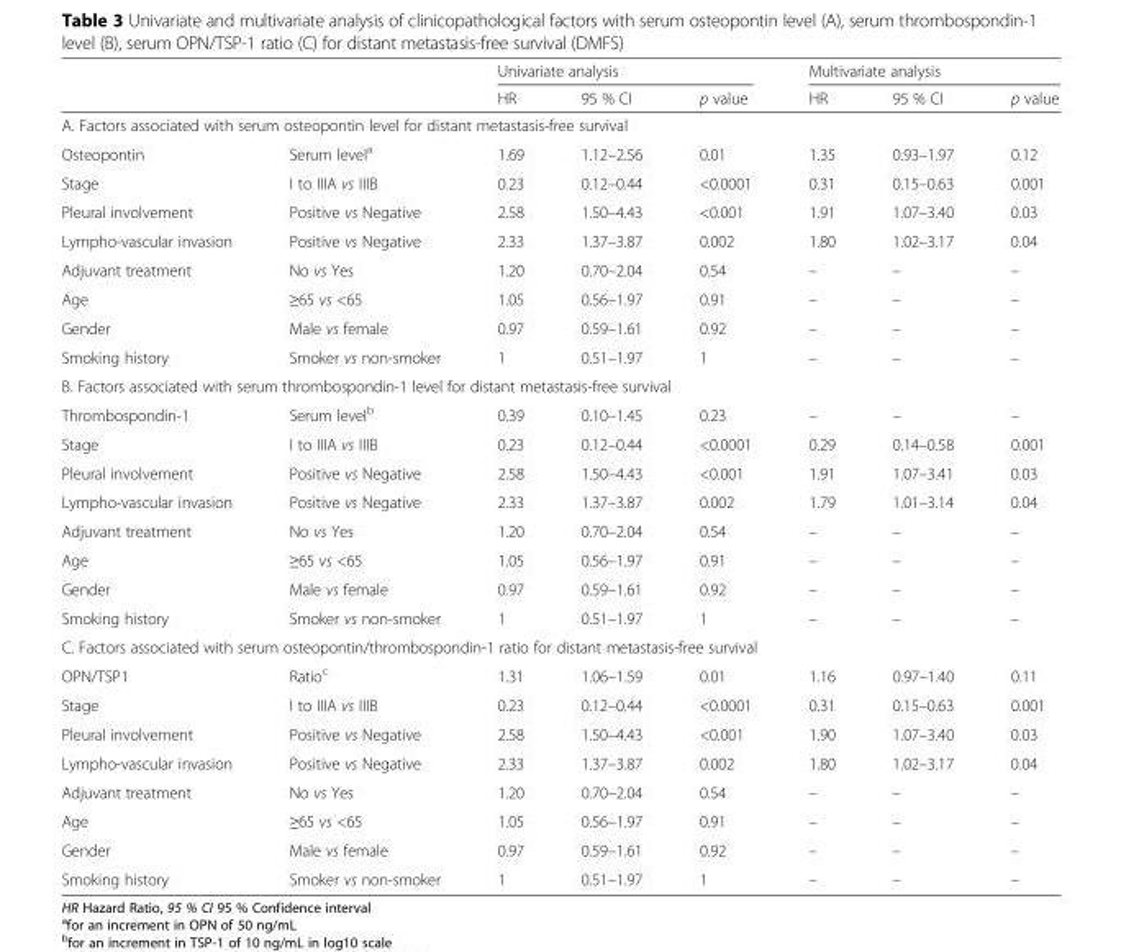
<table><thead><tr><td rowspan="2"></td><td rowspan="2"></td><td colspan="3">Univariate analysis</td><td colspan="3">Multivariate analysis</td></tr><tr><td>HR</td><td>95 % CI</td><td>p value</td><td>HR</td><td>95 % CI</td><td>p value</td></tr></thead><tbody><tr><td colspan="8">A. Factors associated with serum osteopontin level for distant metastasis-free survival</td></tr><tr><td>Osteopontin</td><td>Serum level<sup>a</sup></td><td>1.69</td><td>1.12–2.56</td><td>0.01</td><td>1.35</td><td>0.93–1.97</td><td>0.12</td></tr><tr><td>Stage</td><td>I to IIIA vs IIIB</td><td>0.23</td><td>0.12–0.44</td><td>&lt;0.0001</td><td>0.31</td><td>0.15–0.63</td><td>0.001</td></tr><tr><td>Pleural involvement</td><td>Positive vs Negative</td><td>2.58</td><td>1.50–4.43</td><td>&lt;0.001</td><td>1.91</td><td>1.07–3.40</td><td>0.03</td></tr><tr><td>Lympho-vascular invasion</td><td>Positive vs Negative</td><td>2.33</td><td>1.37–3.87</td><td>0.002</td><td>1.80</td><td>1.02–3.17</td><td>0.04</td></tr><tr><td>Adjuvant treatment</td><td>No vs Yes</td><td>1.20</td><td>0.70–2.04</td><td>0.54</td><td>–</td><td>–</td><td>–</td></tr><tr><td>Age</td><td>≥65 vs &lt;65</td><td>1.05</td><td>0.56–1.97</td><td>0.91</td><td>–</td><td>–</td><td>–</td></tr><tr><td>Gender</td><td>Male vs female</td><td>0.97</td><td>0.59–1.61</td><td>0.92</td><td>–</td><td>–</td><td>–</td></tr><tr><td>Smoking history</td><td>Smoker vs non-smoker</td><td>1</td><td>0.51–1.97</td><td>1</td><td>–</td><td>–</td><td>–</td></tr><tr><td colspan="8">B. Factors associated with serum thrombospondin-1 level for distant metastasis-free survival</td></tr><tr><td>Thrombospondin-1</td><td>Serum level<sup>b</sup></td><td>0.39</td><td>0.10–1.45</td><td>0.23</td><td>–</td><td>–</td><td>–</td></tr><tr><td>Stage</td><td>I to IIIA vs IIIB</td><td>0.23</td><td>0.12–0.44</td><td>&lt;0.0001</td><td>0.29</td><td>0.14–0.58</td><td>0.001</td></tr><tr><td>Pleural involvement</td><td>Positive vs Negative</td><td>2.58</td><td>1.50–4.43</td><td>&lt;0.001</td><td>1.91</td><td>1.07–3.41</td><td>0.03</td></tr><tr><td>Lympho-vascular invasion</td><td>Positive vs Negative</td><td>2.33</td><td>1.37–3.87</td><td>0.002</td><td>1.79</td><td>1.01–3.14</td><td>0.04</td></tr><tr><td>Adjuvant treatment</td><td>No vs Yes</td><td>1.20</td><td>0.70–2.04</td><td>0.54</td><td>–</td><td>–</td><td>–</td></tr><tr><td>Age</td><td>≥65 vs &lt;65</td><td>1.05</td><td>0.56–1.97</td><td>0.91</td><td>–</td><td>–</td><td>–</td></tr><tr><td>Gender</td><td>Male vs female</td><td>0.97</td><td>0.59–1.61</td><td>0.92</td><td>–</td><td>–</td><td>–</td></tr><tr><td>Smoking history</td><td>Smoker vs non-smoker</td><td>1</td><td>0.51–1.97</td><td>1</td><td>–</td><td>–</td><td>–</td></tr><tr><td colspan="8">C. Factors associated with serum osteopontin/thrombospondin-1 ratio for distant metastasis-free survival</td></tr><tr><td>OPN/TSP1</td><td>Ratio<sup>c</sup></td><td>1.31</td><td>1.06–1.59</td><td>0.01</td><td>1.16</td><td>0.97–1.40</td><td>0.11</td></tr><tr><td>Stage</td><td>I to IIIA vs IIIB</td><td>0.23</td><td>0.12–0.44</td><td>&lt;0.0001</td><td>0.31</td><td>0.15–0.63</td><td>0.001</td></tr><tr><td>Pleural involvement</td><td>Positive vs Negative</td><td>2.58</td><td>1.50–4.43</td><td>&lt;0.001</td><td>1.90</td><td>1.07–3.40</td><td>0.03</td></tr><tr><td>Lympho-vascular invasion</td><td>Positive vs Negative</td><td>2.33</td><td>1.37–3.87</td><td>0.002</td><td>1.80</td><td>1.02–3.17</td><td>0.04</td></tr><tr><td>Adjuvant treatment</td><td>No vs Yes</td><td>1.20</td><td>0.70–2.04</td><td>0.54</td><td>–</td><td>–</td><td>–</td></tr><tr><td>Age</td><td>≥65 vs &lt;65</td><td>1.05</td><td>0.56–1.97</td><td>0.91</td><td>–</td><td>–</td><td>–</td></tr><tr><td>Gender</td><td>Male vs female</td><td>0.97</td><td>0.59–1.61</td><td>0.92</td><td>–</td><td>–</td><td>–</td></tr><tr><td>Smoking history</td><td>Smoker vs non-smoker</td><td>1</td><td>0.51–1.97</td><td>1</td><td>–</td><td>–</td><td>–</td></tr></tbody></table>